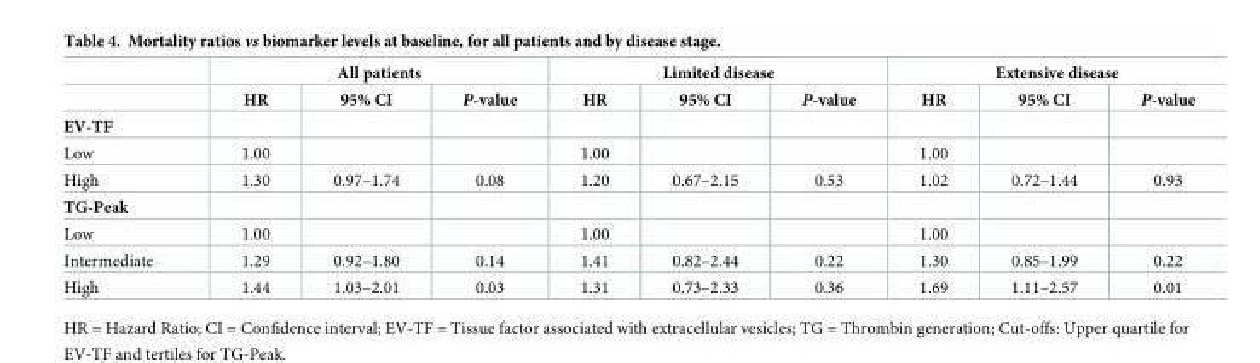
<table><thead><tr><td rowspan="2"></td><td colspan="3">All patients</td><td colspan="3">Limited disease</td><td colspan="3">Extensive disease</td></tr><tr><td>HR</td><td>95% CI</td><td>P-value</td><td>HR</td><td>95% CI</td><td>P-value</td><td>HR</td><td>95% CI</td><td>P-value</td></tr></thead><tbody><tr><td colspan="10">EV-TF</td></tr><tr><td>Low</td><td>1.00</td><td></td><td></td><td>1.00</td><td></td><td></td><td>1.00</td><td></td><td></td></tr><tr><td>High</td><td>1.30</td><td>0.97–1.74</td><td>0.08</td><td>1.20</td><td>0.67–2.15</td><td>0.53</td><td>1.02</td><td>0.72–1.44</td><td>0.93</td></tr><tr><td colspan="10">TG-Peak</td></tr><tr><td>Low</td><td>1.00</td><td></td><td></td><td>1.00</td><td></td><td></td><td>1.00</td><td></td><td></td></tr><tr><td>Intermediate</td><td>1.29</td><td>0.92–1.80</td><td>0.14</td><td>1.41</td><td>0.82–2.44</td><td>0.22</td><td>1.30</td><td>0.85–1.99</td><td>0.22</td></tr><tr><td>High</td><td>1.44</td><td>1.03–2.01</td><td>0.03</td><td>1.31</td><td>0.73–2.33</td><td>0.36</td><td>1.69</td><td>1.11–2.57</td><td>0.01</td></tr></tbody></table>